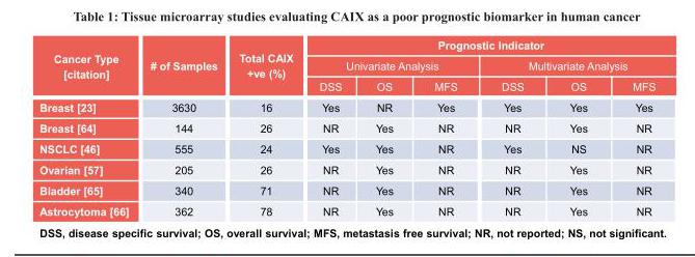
<table><thead><tr><td rowspan="3">Cancer Type [citation]</td><td rowspan="3"># of Samples</td><td rowspan="3">Total CAIX +ve (%)</td><td colspan="6">Prognostic Indicator</td></tr><tr><td colspan="3">Univariate Analysis</td><td colspan="3">Multivariate Analysis</td></tr><tr><td>DSS</td><td>OS</td><td>MFS</td><td>DSS</td><td>OS</td><td>MFS</td></tr></thead><tbody><tr><td>Breast [23]</td><td>3630</td><td>16</td><td>Yes</td><td>NR</td><td>Yes</td><td>Yes</td><td>Yes</td><td>Yes</td></tr><tr><td>Breast [64]</td><td>144</td><td>26</td><td>NR</td><td>Yes</td><td>NR</td><td>NR</td><td>Yes</td><td>NR</td></tr><tr><td>NSCLC [46]</td><td>555</td><td>24</td><td>Yes</td><td>Yes</td><td>NR</td><td>Yes</td><td>NS</td><td>NR</td></tr><tr><td>Ovarian [57]</td><td>205</td><td>26</td><td>NR</td><td>Yes</td><td>NR</td><td>NR</td><td>Yes</td><td>NR</td></tr><tr><td>Bladder [65]</td><td>340</td><td>71</td><td>NR</td><td>Yes</td><td>NR</td><td>NR</td><td>Yes</td><td>NR</td></tr><tr><td>Astrocytoma [66]</td><td>362</td><td>78</td><td>NR</td><td>Yes</td><td>NR</td><td>NR</td><td>Yes</td><td>NR</td></tr></tbody></table>